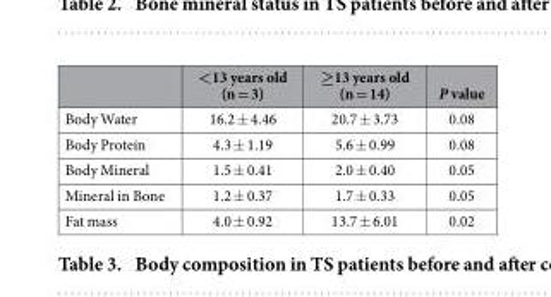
<table><thead><tr><td></td><td>&lt;13 years old (n = 3)</td><td>≥13 years old (n = 14)</td><td>P value</td></tr></thead><tbody><tr><td>Body Water</td><td>16.2 ± 4.46</td><td>20.7 ± 3.73</td><td>0.08</td></tr><tr><td>Body Protein</td><td>4.3 ± 1.19</td><td>5.6 ± 0.99</td><td>0.08</td></tr><tr><td>Body Mineral</td><td>1.5 ± 0.41</td><td>2.0 ± 0.40</td><td>0.05</td></tr><tr><td>Mineral in Bone</td><td>1.2 ± 0.37</td><td>1.7 ± 0.33</td><td>0.05</td></tr><tr><td>Fat mass</td><td>4.0 ± 0.92</td><td>13.7 ± 6.01</td><td>0.02</td></tr></tbody></table>